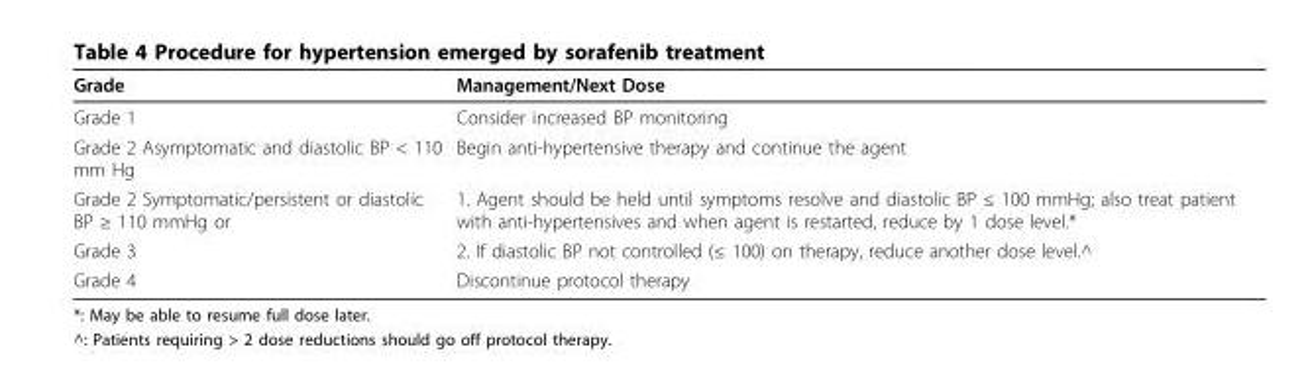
<table><thead><tr><td>Grade</td><td>Management/Next Dose</td></tr></thead><tbody><tr><td>Grade 1</td><td>Consider increased BP monitoring</td></tr><tr><td>Grade 2 Asymptomatic and diastolic BP &lt; 110 mm Hg</td><td>Begin anti-hypertensive therapy and continue the agent</td></tr><tr><td>Grade 2 Symptomatic/persistent or diastolic BP ≥ 110 mmHg or</td><td>1. Agent should be held until symptoms resolve and diastolic BP ≤ 100 mmHg; also treat patient with anti-hypertensives and when agent is restarted, reduce by 1 dose level.*</td></tr><tr><td>Grade 3</td><td>2. If diastolic BP not controlled (≤ 100) on therapy, reduce another dose level.^</td></tr><tr><td>Grade 4</td><td>Discontinue protocol therapy</td></tr></tbody></table>